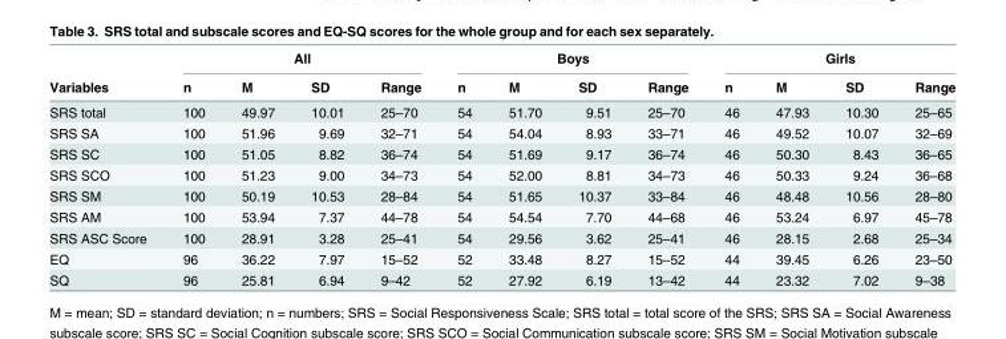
<table><thead><tr><td rowspan="2">Variables</td><td colspan="4">All</td><td colspan="4">Boys</td><td colspan="4">Girls</td></tr><tr><td>n</td><td>M</td><td>SD</td><td>Range</td><td>n</td><td>M</td><td>SD</td><td>Range</td><td>n</td><td>M</td><td>SD</td><td>Range</td></tr></thead><tbody><tr><td>SRS total</td><td>100</td><td>49.97</td><td>10.01</td><td>25–70</td><td>54</td><td>51.70</td><td>9.51</td><td>25–70</td><td>46</td><td>47.93</td><td>10.30</td><td>25–65</td></tr><tr><td>SRS SA</td><td>100</td><td>51.96</td><td>9.69</td><td>32–71</td><td>54</td><td>54.04</td><td>8.93</td><td>33–71</td><td>46</td><td>49.52</td><td>10.07</td><td>32–69</td></tr><tr><td>SRS SC</td><td>100</td><td>51.05</td><td>8.82</td><td>36–74</td><td>54</td><td>51.69</td><td>9.17</td><td>36–74</td><td>46</td><td>50.30</td><td>8.43</td><td>36–65</td></tr><tr><td>SRS SCO</td><td>100</td><td>51.23</td><td>9.00</td><td>34–73</td><td>54</td><td>52.00</td><td>8.81</td><td>34–73</td><td>46</td><td>50.33</td><td>9.24</td><td>36–68</td></tr><tr><td>SRS SM</td><td>100</td><td>50.19</td><td>10.53</td><td>28–84</td><td>54</td><td>51.65</td><td>10.37</td><td>33–84</td><td>46</td><td>48.48</td><td>10.56</td><td>28–80</td></tr><tr><td>SRS AM</td><td>100</td><td>53.94</td><td>7.37</td><td>44–78</td><td>54</td><td>54.54</td><td>7.70</td><td>44–68</td><td>46</td><td>53.24</td><td>6.97</td><td>45–78</td></tr><tr><td>SRS ASC Score</td><td>100</td><td>28.91</td><td>3.28</td><td>25–41</td><td>54</td><td>29.56</td><td>3.62</td><td>25–41</td><td>46</td><td>28.15</td><td>2.68</td><td>25–34</td></tr><tr><td>EQ</td><td>96</td><td>36.22</td><td>7.97</td><td>15–52</td><td>52</td><td>33.48</td><td>8.27</td><td>15–52</td><td>44</td><td>39.45</td><td>6.26</td><td>23–50</td></tr><tr><td>SQ</td><td>96</td><td>25.81</td><td>6.94</td><td>9–42</td><td>52</td><td>27.92</td><td>6.19</td><td>13–42</td><td>44</td><td>23.32</td><td>7.02</td><td>9–38</td></tr></tbody></table>